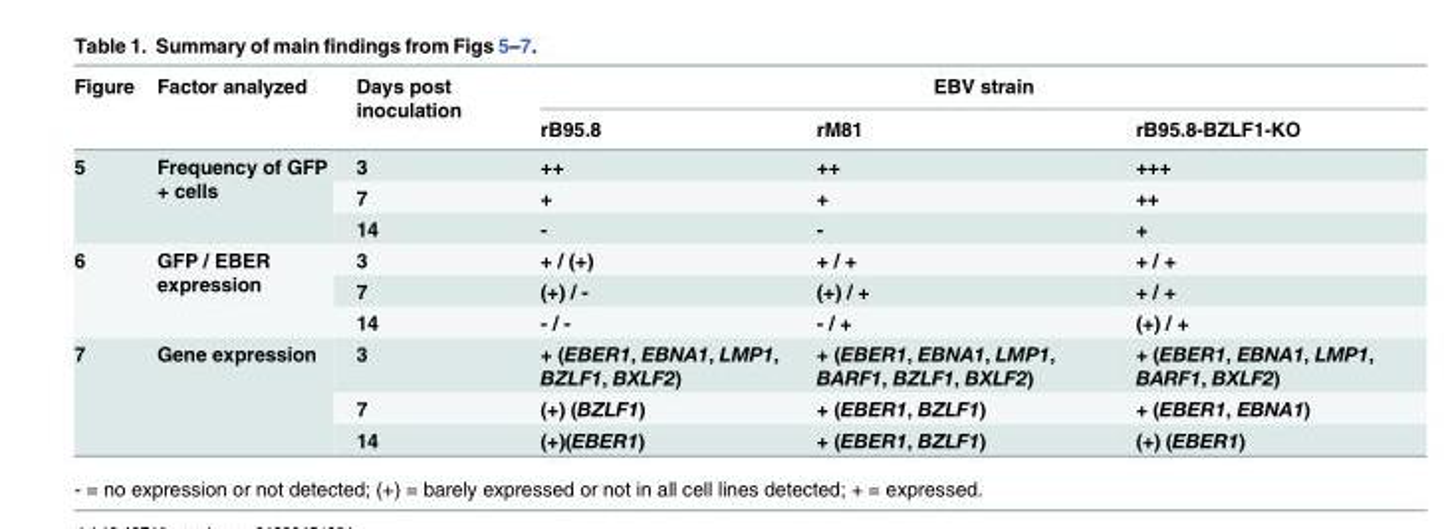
<table><thead><tr><td rowspan="2">Figure</td><td rowspan="2">Factor analyzed</td><td rowspan="2">Days post inoculation</td><td colspan="3">EBV strain</td></tr><tr><td>rB95.8</td><td>rM81</td><td>rB95.8-BZLF1-KO</td></tr></thead><tbody><tr><td rowspan="3">5</td><td rowspan="3">Frequency of GFP + cells</td><td>3</td><td>++</td><td>++</td><td>+++</td></tr><tr><td>7</td><td>+</td><td>+</td><td>++</td></tr><tr><td>14</td><td>-</td><td>-</td><td>+</td></tr><tr><td rowspan="3">6</td><td rowspan="3">GFP / EBER expression</td><td>3</td><td>+ / (+)</td><td>+ / +</td><td>+ / +</td></tr><tr><td>7</td><td>(+) / -</td><td>(+) / +</td><td>+ / +</td></tr><tr><td>14</td><td>- / -</td><td>- / +</td><td>(+) / +</td></tr><tr><td rowspan="3">7</td><td rowspan="3">Gene expression</td><td>3</td><td>+ (EBER1, EBNA1, LMP1, BZLF1, BXLF2)</td><td>+ (EBER1, EBNA1, LMP1, BARF1, BZLF1, BXLF2)</td><td>+ (EBER1, EBNA1, LMP1, BARF1, BXLF2)</td></tr><tr><td>7</td><td>(+) (BZLF1)</td><td>+ (EBER1, BZLF1)</td><td>+ (EBER1, EBNA1)</td></tr><tr><td>14</td><td>(+)(EBER1)</td><td>+ (EBER1, BZLF1)</td><td>(+) (EBER1)</td></tr></tbody></table>